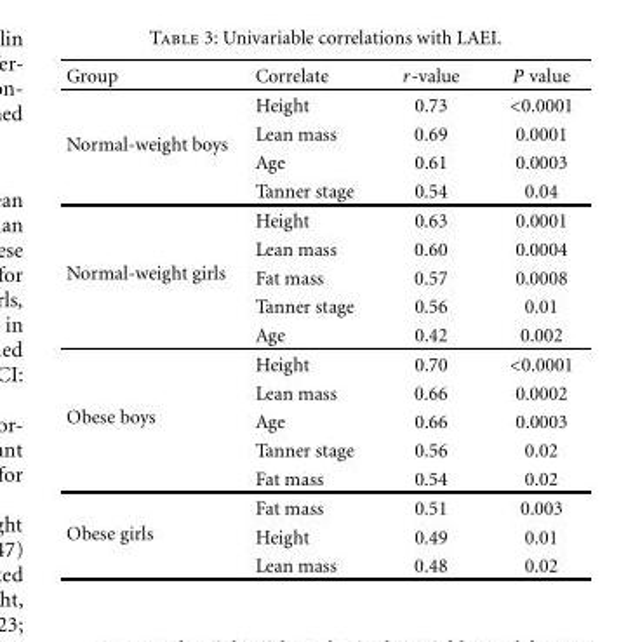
<table><thead><tr><td>Group</td><td>Correlate</td><td>r-value</td><td>P value</td></tr></thead><tbody><tr><td rowspan="4">Normal-weight boys</td><td>Height</td><td>0.73</td><td>&lt;0.0001</td></tr><tr><td>Lean mass</td><td>0.69</td><td>0.0001</td></tr><tr><td>Age</td><td>0.61</td><td>0.0003</td></tr><tr><td>Tanner stage</td><td>0.54</td><td>0.04</td></tr><tr><td rowspan="5">Normal-weight girls</td><td>Height</td><td>0.63</td><td>0.0001</td></tr><tr><td>Lean mass</td><td>0.60</td><td>0.0004</td></tr><tr><td>Fat mass</td><td>0.57</td><td>0.0008</td></tr><tr><td>Tanner stage</td><td>0.56</td><td>0.01</td></tr><tr><td>Age</td><td>0.42</td><td>0.002</td></tr><tr><td rowspan="5">Obese boys</td><td>Height</td><td>0.70</td><td>&lt;0.0001</td></tr><tr><td>Lean mass</td><td>0.66</td><td>0.0002</td></tr><tr><td>Age</td><td>0.66</td><td>0.0003</td></tr><tr><td>Tanner stage</td><td>0.56</td><td>0.02</td></tr><tr><td>Fat mass</td><td>0.54</td><td>0.02</td></tr><tr><td rowspan="3">Obese girls</td><td>Fat mass</td><td>0.51</td><td>0.003</td></tr><tr><td>Height</td><td>0.49</td><td>0.01</td></tr><tr><td>Lean mass</td><td>0.48</td><td>0.02</td></tr></tbody></table>